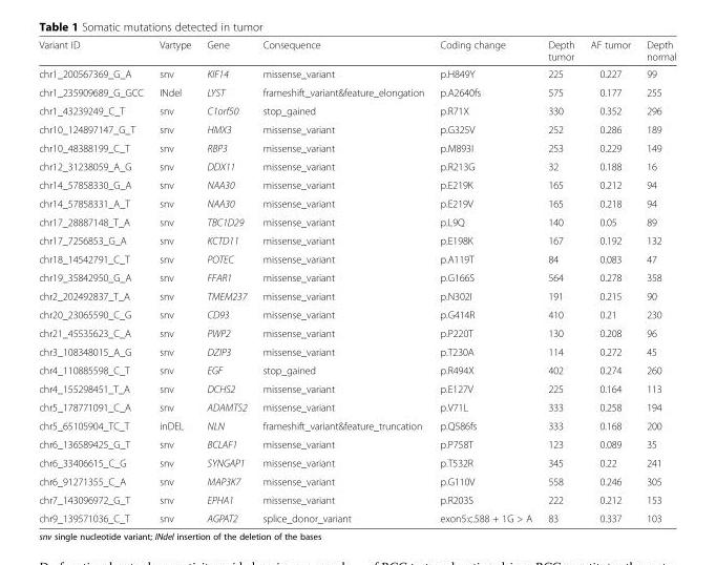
<table><thead><tr><td>Variant ID</td><td>Vartype</td><td>Gene</td><td>Consequence</td><td>Coding change</td><td>Depth tumor</td><td>AF tumor</td><td>Depth normal</td></tr></thead><tbody><tr><td>chr1_200567369_G_A</td><td>snv</td><td>KIF14</td><td>missense_variant</td><td>p.H849Y</td><td>225</td><td>0.227</td><td>99</td></tr><tr><td>chr1_235909689_G_GCC</td><td>INdel</td><td>LYST</td><td>frameshift_variant&amp;feature_elongation</td><td>p.A2640fs</td><td>575</td><td>0.177</td><td>255</td></tr><tr><td>chr1_43239249_C_T</td><td>snv</td><td>C1orf50</td><td>stop_gained</td><td>p.R71X</td><td>330</td><td>0.352</td><td>296</td></tr><tr><td>chr10_124897147_G_T</td><td>snv</td><td>HMX3</td><td>missense_variant</td><td>p.G325V</td><td>252</td><td>0.286</td><td>189</td></tr><tr><td>chr10_48388199_C_T</td><td>snv</td><td>RBP3</td><td>missense_variant</td><td>p.M893I</td><td>253</td><td>0.229</td><td>149</td></tr><tr><td>chr12_31238059_A_G</td><td>snv</td><td>DDX11</td><td>missense_variant</td><td>p.R213G</td><td>32</td><td>0.188</td><td>16</td></tr><tr><td>chr14_57858330_G_A</td><td>snv</td><td>NAA30</td><td>missense_variant</td><td>p.E219K</td><td>165</td><td>0.212</td><td>94</td></tr><tr><td>chr14_57858331_A_T</td><td>snv</td><td>NAA30</td><td>missense_variant</td><td>p.E219V</td><td>165</td><td>0.218</td><td>94</td></tr><tr><td>chr17_28887148_T_A</td><td>snv</td><td>TBC1D29</td><td>missense_variant</td><td>p.L9Q</td><td>140</td><td>0.05</td><td>89</td></tr><tr><td>chr17_7256853_G_A</td><td>snv</td><td>KCTD11</td><td>missense_variant</td><td>p.E198K</td><td>167</td><td>0.192</td><td>132</td></tr><tr><td>chr18_14542791_C_T</td><td>snv</td><td>POTEC</td><td>missense_variant</td><td>p.A119T</td><td>84</td><td>0.083</td><td>47</td></tr><tr><td>chr19_35842950_G_A</td><td>snv</td><td>FFAR1</td><td>missense_variant</td><td>p.G166S</td><td>564</td><td>0.278</td><td>358</td></tr><tr><td>chr2_202492837_T_A</td><td>snv</td><td>TMEM237</td><td>missense_variant</td><td>p.N302I</td><td>191</td><td>0.215</td><td>90</td></tr><tr><td>chr20_23065590_C_G</td><td>snv</td><td>CD93</td><td>missense_variant</td><td>p.G414R</td><td>410</td><td>0.21</td><td>230</td></tr><tr><td>chr21_45535623_C_A</td><td>snv</td><td>PWP2</td><td>missense_variant</td><td>p.P220T</td><td>130</td><td>0.208</td><td>96</td></tr><tr><td>chr3_108348015_A_G</td><td>snv</td><td>DZIP3</td><td>missense_variant</td><td>p.T230A</td><td>114</td><td>0.272</td><td>45</td></tr><tr><td>chr4_110885598_C_T</td><td>snv</td><td>EGF</td><td>stop_gained</td><td>p.R494X</td><td>402</td><td>0.274</td><td>260</td></tr><tr><td>chr4_155298451_T_A</td><td>snv</td><td>DCHS2</td><td>missense_variant</td><td>p.E127V</td><td>225</td><td>0.164</td><td>113</td></tr><tr><td>chr5_178771091_C_A</td><td>snv</td><td>ADAMTS2</td><td>missense_variant</td><td>p.V71L</td><td>333</td><td>0.258</td><td>194</td></tr><tr><td>chr5_65105904_TC_T</td><td>inDEL</td><td>NLN</td><td>frameshift_variant&amp;feature_truncation</td><td>p.Q586fs</td><td>333</td><td>0.168</td><td>200</td></tr><tr><td>chr6_136589425_G_T</td><td>snv</td><td>BCLAF1</td><td>missense_variant</td><td>p.P758T</td><td>123</td><td>0.089</td><td>35</td></tr><tr><td>chr6_33406615_C_G</td><td>snv</td><td>SYNGAP1</td><td>missense_variant</td><td>p.T532R</td><td>345</td><td>0.22</td><td>241</td></tr><tr><td>chr6_91271355_C_A</td><td>snv</td><td>MAP3K7</td><td>missense_variant</td><td>p.G110V</td><td>558</td><td>0.246</td><td>305</td></tr><tr><td>chr7_143096972_G_T</td><td>snv</td><td>EPHA1</td><td>missense_variant</td><td>p.R203S</td><td>222</td><td>0.212</td><td>153</td></tr><tr><td>chr9_139571036_C_T</td><td>snv</td><td>AGPAT2</td><td>splice_donor_variant</td><td>exon5:c.588 + 1G &gt; A</td><td>83</td><td>0.337</td><td>103</td></tr></tbody></table>